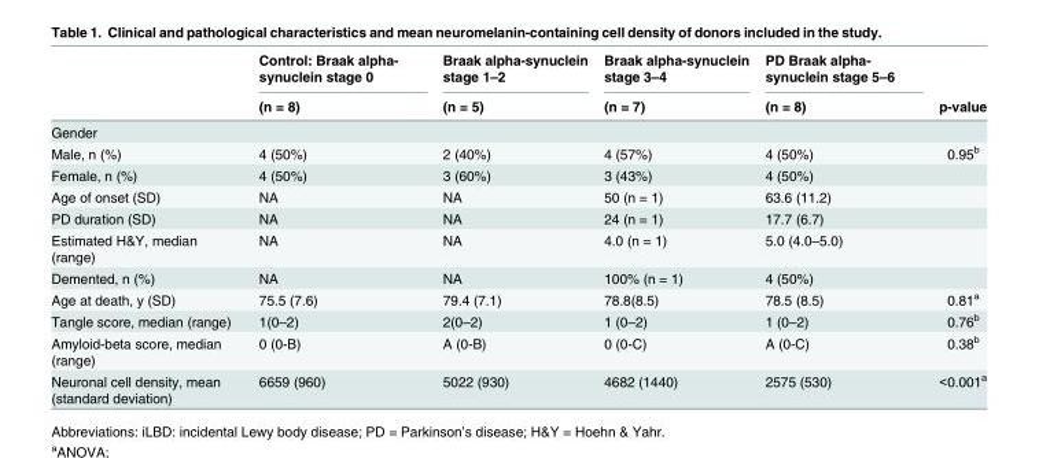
<table><thead><tr><td rowspan="2"></td><td rowspan="2">Control: Braak alpha- synuclein stage 0 (n = 8)</td><td rowspan="2">Braak alpha-synuclein stage 1–2 (n = 5)</td><td rowspan="2">Braak alpha-synuclein stage 3–4 (n = 7)</td><td rowspan="2">PD Braak alpha- synuclein stage 5–6 (n = 8)</td><td rowspan="2">p-value</td></tr><tr></tr></thead><tbody><tr><td colspan="6">Gender</td></tr><tr><td>Male, n (%)</td><td>4 (50%)</td><td>2 (40%)</td><td>4 (57%)</td><td>4 (50%)</td><td>0.95<sup>b</sup></td></tr><tr><td>Female, n (%)</td><td>4 (50%)</td><td>3 (60%)</td><td>3 (43%)</td><td>4 (50%)</td><td></td></tr><tr><td>Age of onset (SD)</td><td>NA</td><td>NA</td><td>50 (n = 1)</td><td>63.6 (11.2)</td><td></td></tr><tr><td>PD duration (SD)</td><td>NA</td><td>NA</td><td>24 (n = 1)</td><td>17.7 (6.7)</td><td></td></tr><tr><td>Estimated H&amp;Y, median (range)</td><td>NA</td><td>NA</td><td>4.0 (n = 1)</td><td>5.0 (4.0–5.0)</td><td></td></tr><tr><td>Demented, n (%)</td><td>NA</td><td>NA</td><td>100% (n = 1)</td><td>4 (50%)</td><td></td></tr><tr><td>Age at death, y (SD)</td><td>75.5 (7.6)</td><td>79.4 (7.1)</td><td>78.8(8.5)</td><td>78.5 (8.5)</td><td>0.81<sup>a</sup></td></tr><tr><td>Tangle score, median (range)</td><td>1(0–2)</td><td>2(0–2)</td><td>1 (0–2)</td><td>1 (0–2)</td><td>0.76<sup>b</sup></td></tr><tr><td>Amyloid-beta score, median (range)</td><td>0 (0-B)</td><td>A (0-B)</td><td>0 (0-C)</td><td>A (0-C)</td><td>0.38<sup>b</sup></td></tr><tr><td>Neuronal cell density, mean (standard deviation)</td><td>6659 (960)</td><td>5022 (930)</td><td>4682 (1440)</td><td>2575 (530)</td><td>&lt;0.001<sup>a</sup></td></tr></tbody></table>